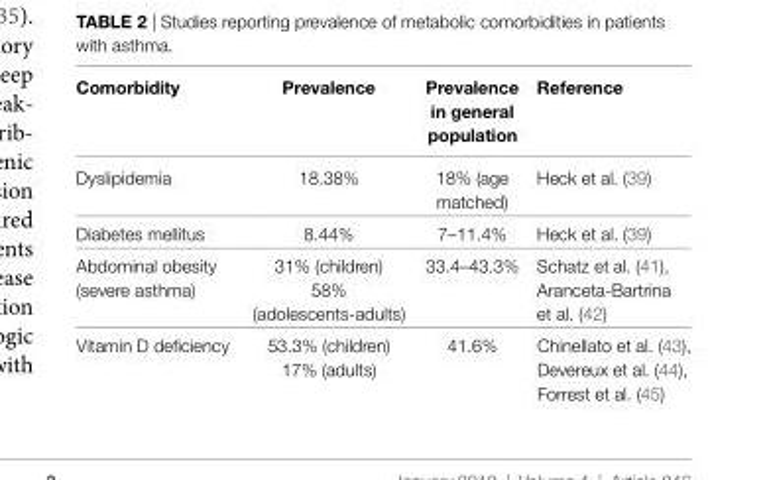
<table><thead><tr><td>Comorbidity</td><td>Prevalence</td><td>Prevalence in general population</td><td>Reference</td></tr></thead><tbody><tr><td>Dyslipidemia</td><td>18.38%</td><td>18% (age matched)</td><td>Heck et al. (39)</td></tr><tr><td>Diabetes mellitus</td><td>8.44%</td><td>7–11.4%</td><td>Heck et al. (39)</td></tr><tr><td rowspan="2">Abdominal obesity (severe asthma)</td><td>31% (children)</td><td rowspan="2">33.4–43.3%</td><td rowspan="2">Schatz et al. (41), Aranceta-Bartrina et al. (42)</td></tr><tr><td>58% (adolescents-adults)</td></tr><tr><td rowspan="2">Vitamin D deficiency</td><td>53.3% (children)</td><td rowspan="2">41.6%</td><td rowspan="2">Chinellato et al. (43), Devereux et al. (44), Forrest et al. (45)</td></tr><tr><td>17% (adults)</td></tr></tbody></table>